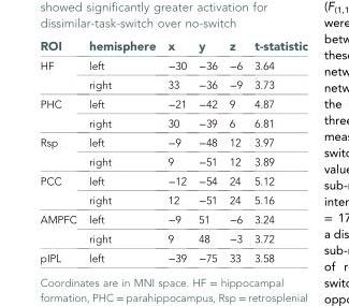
<table><thead><tr><td>ROI</td><td>hemisphere</td><td>x</td><td>y</td><td>z</td><td>t-statistic</td></tr></thead><tbody><tr><td rowspan="2">HF</td><td>left</td><td>−30</td><td>−36</td><td>−6</td><td>3.64</td></tr><tr><td>right</td><td>33</td><td>−36</td><td>−9</td><td>3.73</td></tr><tr><td rowspan="2">PHC</td><td>left</td><td>−21</td><td>−42</td><td>9</td><td>4.87</td></tr><tr><td>right</td><td>30</td><td>−39</td><td>6</td><td>6.81</td></tr><tr><td rowspan="2">Rsp</td><td>left</td><td>−9</td><td>−48</td><td>12</td><td>3.97</td></tr><tr><td>right</td><td>9</td><td>−51</td><td>12</td><td>3.89</td></tr><tr><td rowspan="2">PCC</td><td>left</td><td>−12</td><td>−54</td><td>24</td><td>5.12</td></tr><tr><td>right</td><td>12</td><td>−51</td><td>24</td><td>5.16</td></tr><tr><td rowspan="2">AMPFC</td><td>left</td><td>−9</td><td>51</td><td>−6</td><td>3.24</td></tr><tr><td>right</td><td>9</td><td>48</td><td>−3</td><td>3.72</td></tr><tr><td>pIPL</td><td>left</td><td>−39</td><td>−75</td><td>33</td><td>3.58</td></tr></tbody></table>